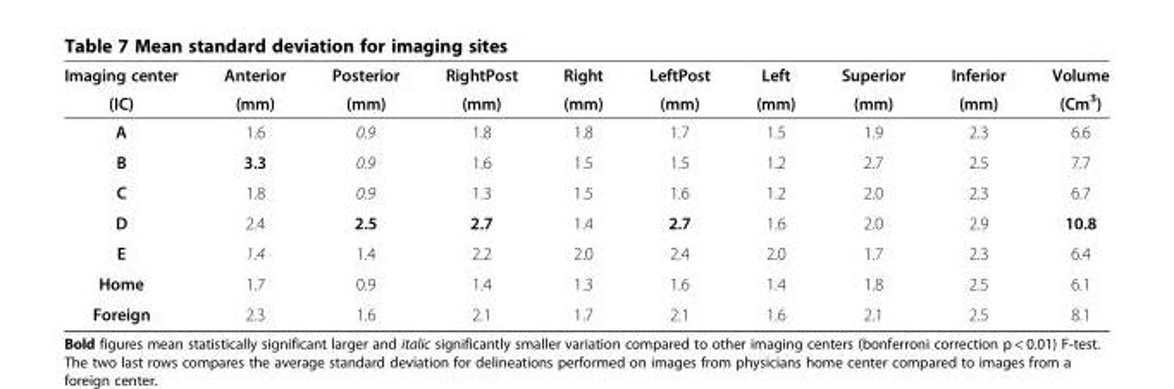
<table><thead><tr><td rowspan="2">Imaging center (IC)</td><td rowspan="2">Anterior (mm)</td><td rowspan="2">Posterior (mm)</td><td rowspan="2">RightPost (mm)</td><td rowspan="2">Right (mm)</td><td rowspan="2">LeftPost (mm)</td><td rowspan="2">Left (mm)</td><td rowspan="2">Superior (mm)</td><td rowspan="2">Inferior (mm)</td><td rowspan="2">Volume (Cm<sup>3</sup>)</td></tr><tr></tr></thead><tbody><tr><td>A</td><td>1.6</td><td>0.9</td><td>1.8</td><td>1.8</td><td>1.7</td><td>1.5</td><td>1.9</td><td>2.3</td><td>6.6</td></tr><tr><td>B</td><td>3.3</td><td>0.9</td><td>1.6</td><td>1.5</td><td>1.5</td><td>1.2</td><td>2.7</td><td>2.5</td><td>7.7</td></tr><tr><td>C</td><td>1.8</td><td>0.9</td><td>1.3</td><td>1.5</td><td>1.6</td><td>1.2</td><td>2.0</td><td>2.3</td><td>6.7</td></tr><tr><td>D</td><td>2.4</td><td>2.5</td><td>2.7</td><td>1.4</td><td>2.7</td><td>1.6</td><td>2.0</td><td>2.9</td><td>10.8</td></tr><tr><td>E</td><td>1.4</td><td>1.4</td><td>2.2</td><td>2.0</td><td>2.4</td><td>2.0</td><td>1.7</td><td>2.3</td><td>6.4</td></tr><tr><td>Home</td><td>1.7</td><td>0.9</td><td>1.4</td><td>1.3</td><td>1.6</td><td>1.4</td><td>1.8</td><td>2.5</td><td>6.1</td></tr><tr><td>Foreign</td><td>2.3</td><td>1.6</td><td>2.1</td><td>1.7</td><td>2.1</td><td>1.6</td><td>2.1</td><td>2.5</td><td>8.1</td></tr></tbody></table>